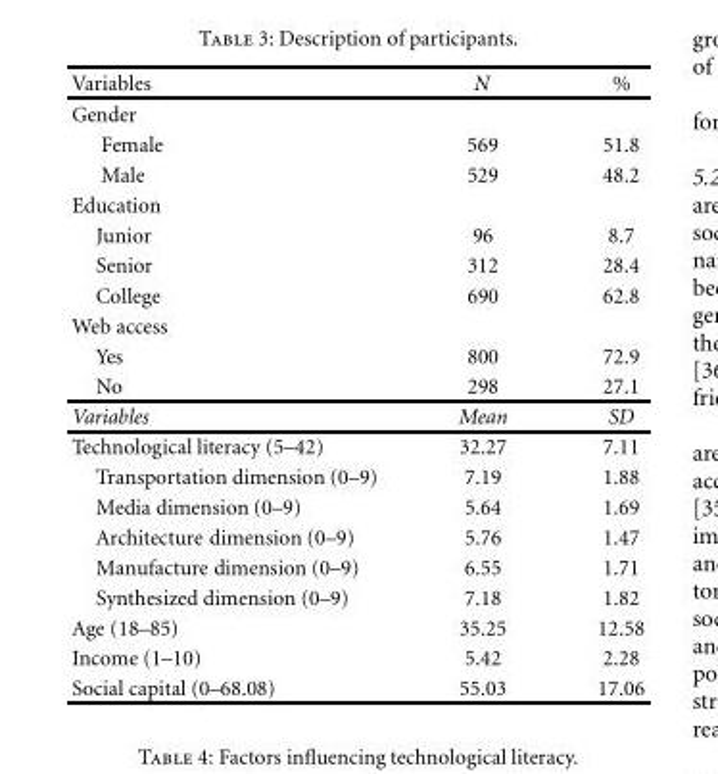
<table><thead><tr><td>Variables</td><td>N</td><td>%</td></tr></thead><tbody><tr><td colspan="3">Gender</td></tr><tr><td>Female</td><td>569</td><td>51.8</td></tr><tr><td>Male</td><td>529</td><td>48.2</td></tr><tr><td colspan="3">Education</td></tr><tr><td>Junior</td><td>96</td><td>8.7</td></tr><tr><td>Senior</td><td>312</td><td>28.4</td></tr><tr><td>College</td><td>690</td><td>62.8</td></tr><tr><td colspan="3">Web access</td></tr><tr><td>Yes</td><td>800</td><td>72.9</td></tr><tr><td>No</td><td>298</td><td>27.1</td></tr><tr><td>Variables</td><td>Mean</td><td>SD</td></tr><tr><td>Technological literacy (5–42)</td><td>32.27</td><td>7.11</td></tr><tr><td>Transportation dimension (0–9)</td><td>7.19</td><td>1.88</td></tr><tr><td>Media dimension (0–9)</td><td>5.64</td><td>1.69</td></tr><tr><td>Architecture dimension (0–9)</td><td>5.76</td><td>1.47</td></tr><tr><td>Manufacture dimension (0–9)</td><td>6.55</td><td>1.71</td></tr><tr><td>Synthesized dimension (0–9)</td><td>7.18</td><td>1.82</td></tr><tr><td>Age (18–85)</td><td>35.25</td><td>12.58</td></tr><tr><td>Income (1–10)</td><td>5.42</td><td>2.28</td></tr><tr><td>Social capital (0–68.08)</td><td>55.03</td><td>17.06</td></tr></tbody></table>